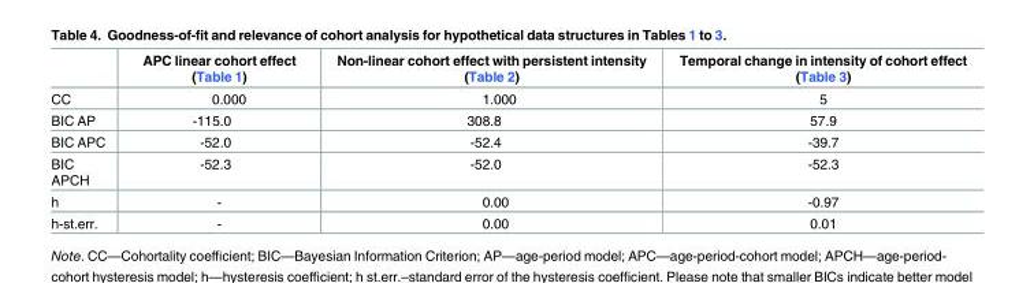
<table><thead><tr><td></td><td>APC linear cohort effect (Table 1)</td><td>Non-linear cohort effect with persistent intensity (Table 2)</td><td>Temporal change in intensity of cohort effect (Table 3)</td></tr></thead><tbody><tr><td>CC</td><td>0.000</td><td>1.000</td><td>5</td></tr><tr><td>BIC AP</td><td>-115.0</td><td>308.8</td><td>57.9</td></tr><tr><td>BIC APC</td><td>-52.0</td><td>-52.4</td><td>-39.7</td></tr><tr><td>BIC APCH</td><td>-52.3</td><td>-52.0</td><td>-52.3</td></tr><tr><td>h</td><td>-</td><td>0.00</td><td>-0.97</td></tr><tr><td>h-st.err.</td><td>-</td><td>0.00</td><td>0.01</td></tr></tbody></table>